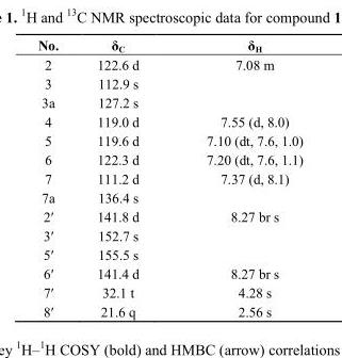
<table><thead><tr><td>No.</td><td>δ<sub>C</sub></td><td>δ<sub>H</sub></td></tr></thead><tbody><tr><td>2</td><td>122.6 d</td><td>7.08 m</td></tr><tr><td>3</td><td>112.9 s</td><td></td></tr><tr><td>3a</td><td>127.2 s</td><td></td></tr><tr><td>4</td><td>119.0 d</td><td>7.55 (d, 8.0)</td></tr><tr><td>5</td><td>119.6 d</td><td>7.10 (dt, 7.6, 1.0)</td></tr><tr><td>6</td><td>122.3 d</td><td>7.20 (dt, 7.6, 1.1)</td></tr><tr><td>7</td><td>111.2 d</td><td>7.37 (d, 8.1)</td></tr><tr><td>7a</td><td>136.4 s</td><td></td></tr><tr><td>2′</td><td>141.8 d</td><td>8.27 br s</td></tr><tr><td>3′</td><td>152.7 s</td><td></td></tr><tr><td>5′</td><td>155.5 s</td><td></td></tr><tr><td>6′</td><td>141.4 d</td><td>8.27 br s</td></tr><tr><td>7′</td><td>32.1 t</td><td>4.28 s</td></tr><tr><td>8′</td><td>21.6 q</td><td>2.56 s</td></tr></tbody></table>